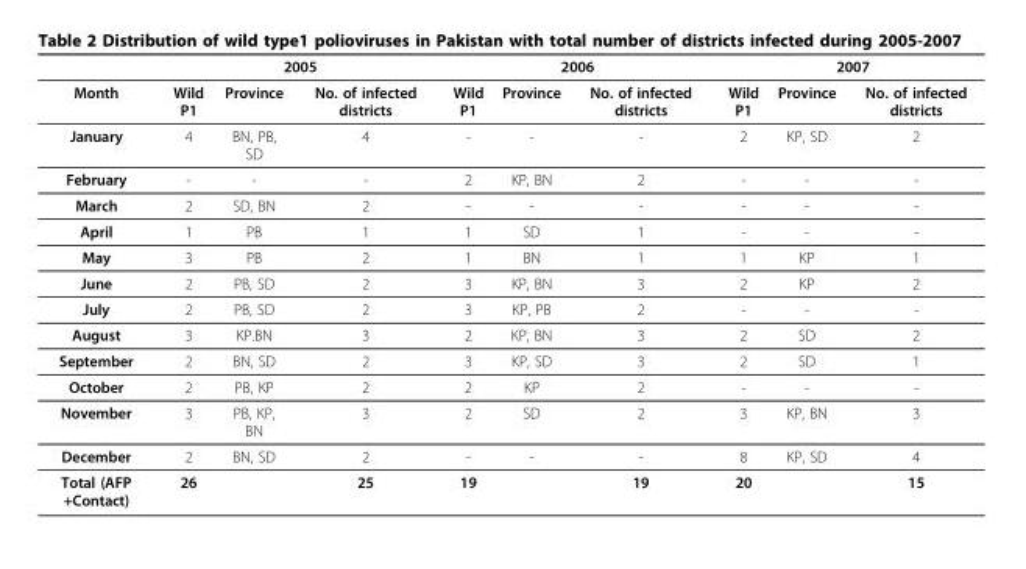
<table><thead><tr><td rowspan="2">Month</td><td colspan="3">2005</td><td colspan="3">2006</td><td colspan="3">2007</td></tr><tr><td>Wild P1</td><td>Province</td><td>No. of infected districts</td><td>Wild P1</td><td>Province</td><td>No. of infected districts</td><td>Wild P1</td><td>Province</td><td>No. of infected districts</td></tr></thead><tbody><tr><td>January</td><td>4</td><td>BN, PB, SD</td><td>4</td><td>-</td><td>-</td><td>-</td><td>2</td><td>KP, SD</td><td>2</td></tr><tr><td>February</td><td>-</td><td>-</td><td>-</td><td>2</td><td>KP, BN</td><td>2</td><td>-</td><td>-</td><td>-</td></tr><tr><td>March</td><td>2</td><td>SD, BN</td><td>2</td><td>-</td><td>-</td><td>-</td><td>-</td><td>-</td><td>-</td></tr><tr><td>April</td><td>1</td><td>PB</td><td>1</td><td>1</td><td>SD</td><td>1</td><td>-</td><td>-</td><td>-</td></tr><tr><td>May</td><td>3</td><td>PB</td><td>2</td><td>1</td><td>BN</td><td>1</td><td>1</td><td>KP</td><td>1</td></tr><tr><td>June</td><td>2</td><td>PB, SD</td><td>2</td><td>3</td><td>KP, BN</td><td>3</td><td>2</td><td>KP</td><td>2</td></tr><tr><td>July</td><td>2</td><td>PB, SD</td><td>2</td><td>3</td><td>KP, PB</td><td>2</td><td>-</td><td>-</td><td>-</td></tr><tr><td>August</td><td>3</td><td>KP.BN</td><td>3</td><td>2</td><td>KP, BN</td><td>3</td><td>2</td><td>SD</td><td>2</td></tr><tr><td>September</td><td>2</td><td>BN, SD</td><td>2</td><td>3</td><td>KP, SD</td><td>3</td><td>2</td><td>SD</td><td>1</td></tr><tr><td>October</td><td>2</td><td>PB, KP</td><td>2</td><td>2</td><td>KP</td><td>2</td><td>-</td><td>-</td><td>-</td></tr><tr><td>November</td><td>3</td><td>PB, KP, BN</td><td>3</td><td>2</td><td>SD</td><td>2</td><td>3</td><td>KP, BN</td><td>3</td></tr><tr><td>December</td><td>2</td><td>BN, SD</td><td>2</td><td>-</td><td>-</td><td>-</td><td>8</td><td>KP, SD</td><td>4</td></tr><tr><td>Total (AFP +Contact)</td><td>26</td><td></td><td>25</td><td>19</td><td></td><td>19</td><td>20</td><td></td><td>15</td></tr></tbody></table>